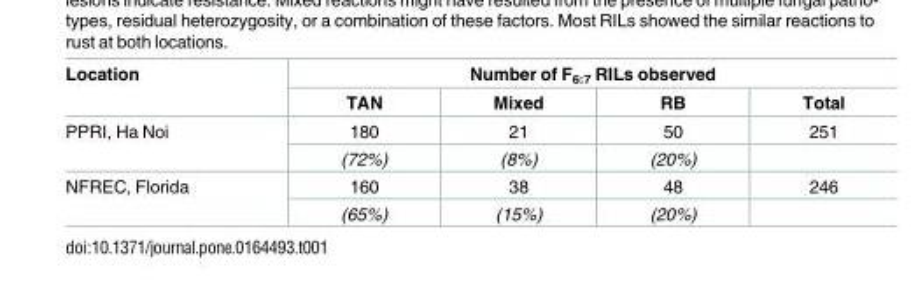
<table><thead><tr><td rowspan="2">Location</td><td colspan="4">Number of F<sub>6:7</sub> RILs observed</td></tr><tr><td>TAN</td><td>Mixed</td><td>RB</td><td>Total</td></tr></thead><tbody><tr><td rowspan="2">PPRI, Ha Noi</td><td>180</td><td>21</td><td>50</td><td>251</td></tr><tr><td>(72%)</td><td>(8%)</td><td>(20%)</td><td></td></tr><tr><td rowspan="2">NFREC, Florida</td><td>160</td><td>38</td><td>48</td><td>246</td></tr><tr><td>(65%)</td><td>(15%)</td><td>(20%)</td><td></td></tr></tbody></table>